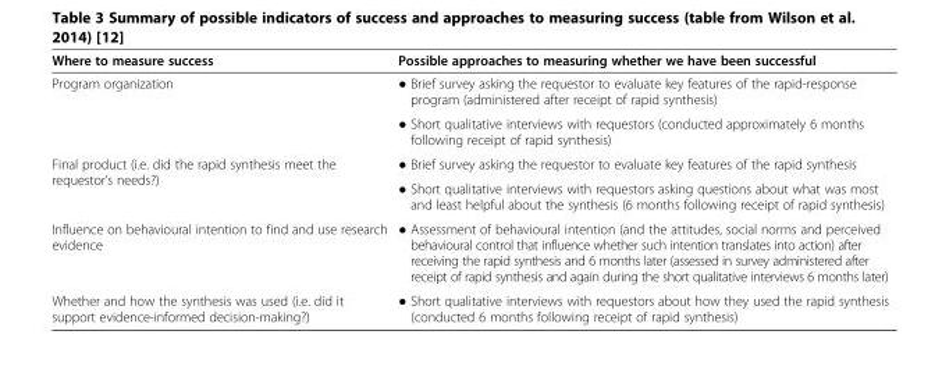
<table><thead><tr><td>Where to measure success</td><td>Possible approaches to measuring whether we have been successful</td></tr></thead><tbody><tr><td rowspan="2">Program organization</td><td>● Brief survey asking the requestor to evaluate key features of the rapid-response program (administered after receipt of rapid synthesis)</td></tr><tr><td>● Short qualitative interviews with requestors (conducted approximately 6 months following receipt of rapid synthesis)</td></tr><tr><td rowspan="2">Final product (i.e. did the rapid synthesis meet the requestor’s needs?)</td><td>● Brief survey asking the requestor to evaluate key features of the rapid synthesis</td></tr><tr><td>● Short qualitative interviews with requestors asking questions about what was most and least helpful about the synthesis (6 months following receipt of rapid synthesis)</td></tr><tr><td>Influence on behavioural intention to find and use research evidence</td><td>● Assessment of behavioural intention (and the attitudes, social norms and perceived behavioural control that influence whether such intention translates into action) after receiving the rapid synthesis and 6 months later (assessed in survey administered after receipt of rapid synthesis and again during the short qualitative interviews 6 months later)</td></tr><tr><td>Whether and how the synthesis was used (i.e. did it support evidence-informed decision-making?)</td><td>● Short qualitative interviews with requestors about how they used the rapid synthesis (conducted 6 months following receipt of rapid synthesis)</td></tr></tbody></table>